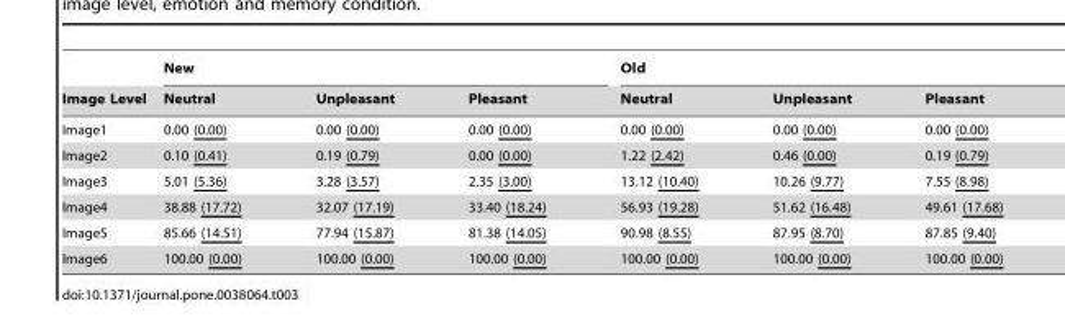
<table><thead><tr><td rowspan="2">Image Level</td><td colspan="3">New</td><td colspan="3">Old</td></tr><tr><td>Neutral</td><td>Unpleasant</td><td>Pleasant</td><td>Neutral</td><td>Unpleasant</td><td>Pleasant</td></tr></thead><tbody><tr><td>Image1</td><td>0.00 (0.00)</td><td>0.00 (0.00)</td><td>0.00 (0.00)</td><td>0.00 (0.00)</td><td>0.00 (0.00)</td><td>0.00 (0.00)</td></tr><tr><td>Image2</td><td>0.10 (0.41)</td><td>0.19 (0.79)</td><td>0.00 (0.00)</td><td>1.22 (2.42)</td><td>0.46 (0.00)</td><td>0.19 (0.79)</td></tr><tr><td>Image3</td><td>5.01 (5.36)</td><td>3.28 (3.57)</td><td>2.35 (3.00)</td><td>13.12 (10.40)</td><td>10.26 (9.77)</td><td>7.55 (8.98)</td></tr><tr><td>Image4</td><td>38.88 (17.72)</td><td>32.07 (17.19)</td><td>33.40 (18.24)</td><td>56.93 (19.28)</td><td>51.62 (16.48)</td><td>49.61 (17.68)</td></tr><tr><td>Image5</td><td>85.66 (14.51)</td><td>77.94 (15.87)</td><td>81.38 (14.05)</td><td>90.98 (8.55)</td><td>87.95 (8.70)</td><td>87.85 (9.40)</td></tr><tr><td>Image6</td><td>100.00 (0.00)</td><td>100.00 (0.00)</td><td>100.00 (0.00)</td><td>100.00 (0.00)</td><td>100.00 (0.00)</td><td>100.00 (0.00)</td></tr></tbody></table>